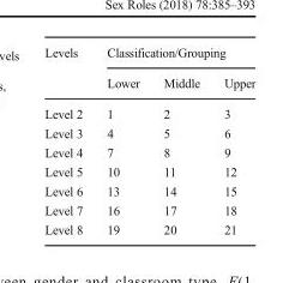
<table><thead><tr><td rowspan="2">Levels</td><td colspan="3">Classification/Grouping</td></tr><tr><td>Lower</td><td>Middle</td><td>Upper</td></tr></thead><tbody><tr><td>Level 2</td><td>1</td><td>2</td><td>3</td></tr><tr><td>Level 3</td><td>4</td><td>5</td><td>6</td></tr><tr><td>Level 4</td><td>7</td><td>8</td><td>9</td></tr><tr><td>Level 5</td><td>10</td><td>11</td><td>12</td></tr><tr><td>Level 6</td><td>13</td><td>14</td><td>15</td></tr><tr><td>Level 7</td><td>16</td><td>17</td><td>18</td></tr><tr><td>Level 8</td><td>19</td><td>20</td><td>21</td></tr></tbody></table>